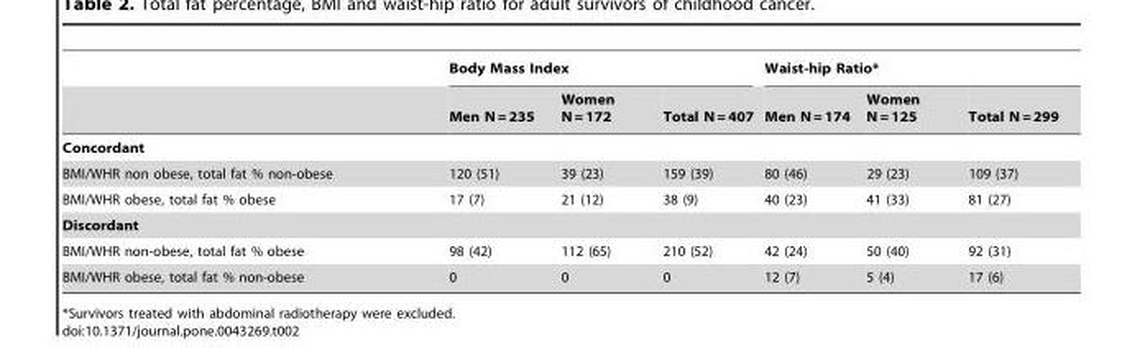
<table><thead><tr><td rowspan="2"></td><td colspan="3">Body Mass Index</td><td colspan="3">Waist-hip Ratio*</td></tr><tr><td>Men N = 235</td><td>Women N = 172</td><td>Total N = 407</td><td>Men N = 174</td><td>Women N = 125</td><td>Total N = 299</td></tr></thead><tbody><tr><td colspan="7">Concordant</td></tr><tr><td>BMI/WHR non obese, total fat % non-obese</td><td>120 (51)</td><td>39 (23)</td><td>159 (39)</td><td>80 (46)</td><td>29 (23)</td><td>109 (37)</td></tr><tr><td>BMI/WHR obese, total fat % obese</td><td>17 (7)</td><td>21 (12)</td><td>38 (9)</td><td>40 (23)</td><td>41 (33)</td><td>81 (27)</td></tr><tr><td colspan="7">Discordant</td></tr><tr><td>BMI/WHR non-obese, total fat % obese</td><td>98 (42)</td><td>112 (65)</td><td>210 (52)</td><td>42 (24)</td><td>50 (40)</td><td>92 (31)</td></tr><tr><td>BMI/WHR obese, total fat % non-obese</td><td>0</td><td>0</td><td>0</td><td>12 (7)</td><td>5 (4)</td><td>17 (6)</td></tr></tbody></table>